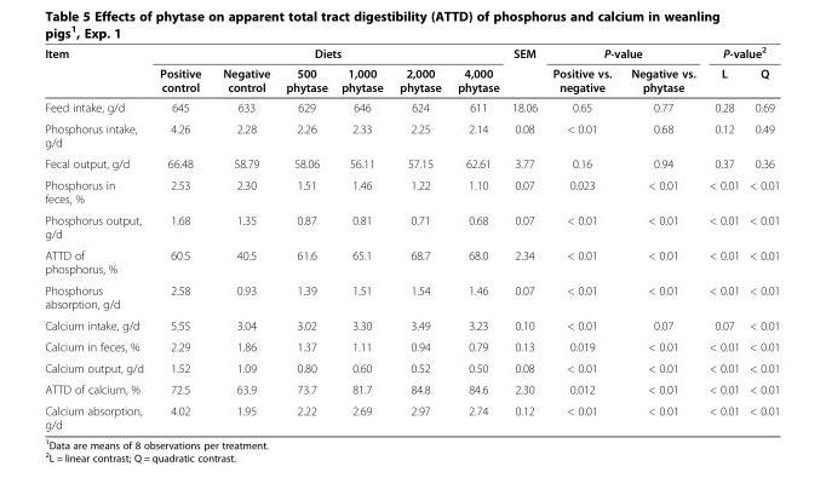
<table><thead><tr><td rowspan="2">Item</td><td colspan="6">Diets</td><td rowspan="2">SEM</td><td colspan="2">P-value</td><td colspan="2">P-value<sup>2</sup></td></tr><tr><td>Positive control</td><td>Negative control</td><td>500 phytase</td><td>1,000 phytase</td><td>2,000 phytase</td><td>4,000 phytase</td><td>Positive vs. negative</td><td>Negative vs. phytase</td><td>L</td><td>Q</td></tr></thead><tbody><tr><td>Feed intake, g/d</td><td>645</td><td>633</td><td>629</td><td>646</td><td>624</td><td>611</td><td>18.06</td><td>0.65</td><td>0.77</td><td>0.28</td><td>0.69</td></tr><tr><td>Phosphorus intake, g/d</td><td>4.26</td><td>2.28</td><td>2.26</td><td>2.33</td><td>2.25</td><td>2.14</td><td>0.08</td><td>&lt; 0.01</td><td>0.68</td><td>0.12</td><td>0.49</td></tr><tr><td>Fecal output, g/d</td><td>66.48</td><td>58.79</td><td>58.06</td><td>56.11</td><td>57.15</td><td>62.61</td><td>3.77</td><td>0.16</td><td>0.94</td><td>0.37</td><td>0.36</td></tr><tr><td>Phosphorus in feces, %</td><td>2.53</td><td>2.30</td><td>1.51</td><td>1.46</td><td>1.22</td><td>1.10</td><td>0.07</td><td>0.023</td><td>&lt; 0.01</td><td>&lt; 0.01</td><td>&lt; 0.01</td></tr><tr><td>Phosphorus output, g/d</td><td>1.68</td><td>1.35</td><td>0.87</td><td>0.81</td><td>0.71</td><td>0.68</td><td>0.07</td><td>&lt; 0.01</td><td>&lt; 0.01</td><td>&lt; 0.01</td><td>&lt; 0.01</td></tr><tr><td>ATTD of phosphorus, %</td><td>60.5</td><td>40.5</td><td>61.6</td><td>65.1</td><td>68.7</td><td>68.0</td><td>2.34</td><td>&lt; 0.01</td><td>&lt; 0.01</td><td>&lt; 0.01</td><td>&lt; 0.01</td></tr><tr><td>Phosphorus absorption, g/d</td><td>2.58</td><td>0.93</td><td>1.39</td><td>1.51</td><td>1.54</td><td>1.46</td><td>0.07</td><td>&lt; 0.01</td><td>&lt; 0.01</td><td>&lt; 0.01</td><td>&lt; 0.01</td></tr><tr><td>Calcium intake, g/d</td><td>5.55</td><td>3.04</td><td>3.02</td><td>3.30</td><td>3.49</td><td>3.23</td><td>0.10</td><td>&lt; 0.01</td><td>0.07</td><td>0.07</td><td>&lt; 0.01</td></tr><tr><td>Calcium in feces, %</td><td>2.29</td><td>1.86</td><td>1.37</td><td>1.11</td><td>0.94</td><td>0.79</td><td>0.13</td><td>0.019</td><td>&lt; 0.01</td><td>&lt; 0.01</td><td>&lt; 0.01</td></tr><tr><td>Calcium output, g/d</td><td>1.52</td><td>1.09</td><td>0.80</td><td>0.60</td><td>0.52</td><td>0.50</td><td>0.08</td><td>&lt; 0.01</td><td>&lt; 0.01</td><td>&lt; 0.01</td><td>&lt; 0.01</td></tr><tr><td>ATTD of calcium, %</td><td>72.5</td><td>63.9</td><td>73.7</td><td>81.7</td><td>84.8</td><td>84.6</td><td>2.30</td><td>0.012</td><td>&lt; 0.01</td><td>&lt; 0.01</td><td>&lt; 0.01</td></tr><tr><td>Calcium absorption, g/d</td><td>4.02</td><td>1.95</td><td>2.22</td><td>2.69</td><td>2.97</td><td>2.74</td><td>0.12</td><td>&lt; 0.01</td><td>&lt; 0.01</td><td>&lt; 0.01</td><td>&lt; 0.01</td></tr></tbody></table>